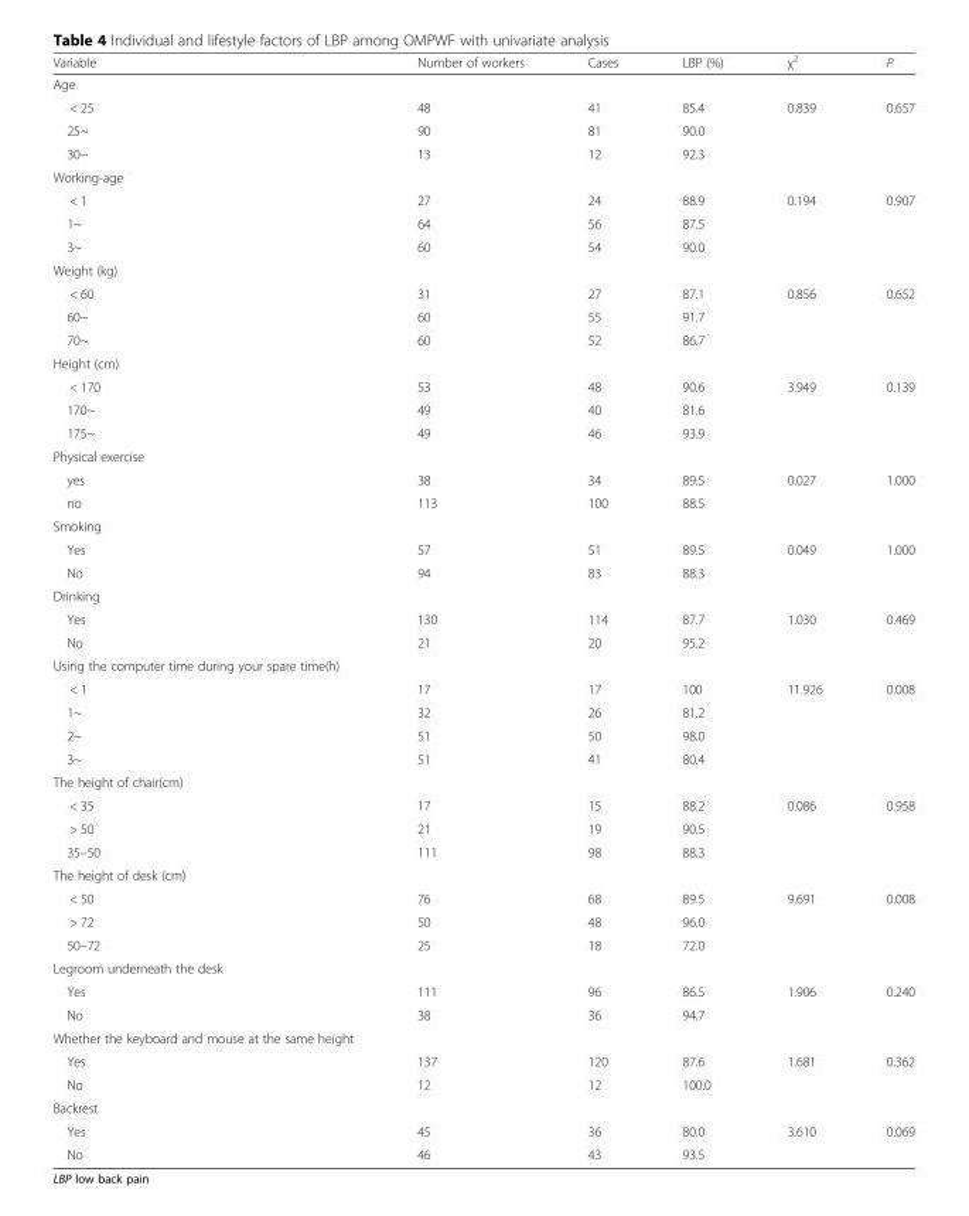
<table><thead><tr><td>Variable</td><td>Number of workers</td><td>Cases</td><td>LBP (%)</td><td>χ<sup>2</sup></td><td>P</td></tr></thead><tbody><tr><td colspan="6">Age</td></tr><tr><td>&lt; 25</td><td>48</td><td>41</td><td>85.4</td><td rowspan="3">0.839</td><td rowspan="3">0.657</td></tr><tr><td>25~</td><td>90</td><td>81</td><td>90.0</td></tr><tr><td>30~</td><td>13</td><td>12</td><td>92.3</td></tr><tr><td colspan="6">Working-age</td></tr><tr><td>&lt; 1</td><td>27</td><td>24</td><td>88.9</td><td rowspan="3">0.194</td><td rowspan="3">0.907</td></tr><tr><td>1~</td><td>64</td><td>56</td><td>87.5</td></tr><tr><td>3~</td><td>60</td><td>54</td><td>90.0</td></tr><tr><td colspan="6">Weight (kg)</td></tr><tr><td>&lt; 60</td><td>31</td><td>27</td><td>87.1</td><td rowspan="3">0.856</td><td rowspan="3">0.652</td></tr><tr><td>60~</td><td>60</td><td>55</td><td>91.7</td></tr><tr><td>70~</td><td>60</td><td>52</td><td>86.7</td></tr><tr><td colspan="6">Height (cm)</td></tr><tr><td>&lt; 170</td><td>53</td><td>48</td><td>90.6</td><td rowspan="3">3.949</td><td rowspan="3">0.139</td></tr><tr><td>170~</td><td>49</td><td>40</td><td>81.6</td></tr><tr><td>175~</td><td>49</td><td>46</td><td>93.9</td></tr><tr><td colspan="6">Physical exercise</td></tr><tr><td>yes</td><td>38</td><td>34</td><td>89.5</td><td rowspan="2">0.027</td><td rowspan="2">1.000</td></tr><tr><td>no</td><td>113</td><td>100</td><td>88.5</td></tr><tr><td colspan="6">Smoking</td></tr><tr><td>Yes</td><td>57</td><td>51</td><td>89.5</td><td rowspan="2">0.049</td><td rowspan="2">1.000</td></tr><tr><td>No</td><td>94</td><td>83</td><td>88.3</td></tr><tr><td colspan="6">Drinking</td></tr><tr><td>Yes</td><td>130</td><td>114</td><td>87.7</td><td rowspan="2">1.030</td><td rowspan="2">0.469</td></tr><tr><td>No</td><td>21</td><td>20</td><td>95.2</td></tr><tr><td colspan="6">Using the computer time during your spare time(h)</td></tr><tr><td>&lt; 1</td><td>17</td><td>17</td><td>100</td><td rowspan="4">11.926</td><td rowspan="4">0.008</td></tr><tr><td>1~</td><td>32</td><td>26</td><td>81.2</td></tr><tr><td>2~</td><td>51</td><td>50</td><td>98.0</td></tr><tr><td>3~</td><td>51</td><td>41</td><td>80.4</td></tr><tr><td colspan="6">The height of chair(cm)</td></tr><tr><td>&lt; 35</td><td>17</td><td>15</td><td>88.2</td><td rowspan="3">0.086</td><td rowspan="3">0.958</td></tr><tr><td>&gt; 50</td><td>21</td><td>19</td><td>90.5</td></tr><tr><td>35–50</td><td>111</td><td>98</td><td>88.3</td></tr><tr><td colspan="6">The height of desk (cm)</td></tr><tr><td>&lt; 50</td><td>76</td><td>68</td><td>89.5</td><td rowspan="3">9.691</td><td rowspan="3">0.008</td></tr><tr><td>&gt; 72</td><td>50</td><td>48</td><td>96.0</td></tr><tr><td>50–72</td><td>25</td><td>18</td><td>72.0</td></tr><tr><td colspan="6">Legroom underneath the desk</td></tr><tr><td>Yes</td><td>111</td><td>96</td><td>86.5</td><td rowspan="2">1.906</td><td rowspan="2">0.240</td></tr><tr><td>No</td><td>38</td><td>36</td><td>94.7</td></tr><tr><td colspan="6">Whether the keyboard and mouse at the same height</td></tr><tr><td>Yes</td><td>137</td><td>120</td><td>87.6</td><td rowspan="2">1.681</td><td rowspan="2">0.362</td></tr><tr><td>No</td><td>12</td><td>12</td><td>100.0</td></tr><tr><td colspan="6">Backrest</td></tr><tr><td>Yes</td><td>45</td><td>36</td><td>80.0</td><td rowspan="2">3.610</td><td rowspan="2">0.069</td></tr><tr><td>No</td><td>46</td><td>43</td><td>93.5</td></tr></tbody></table>